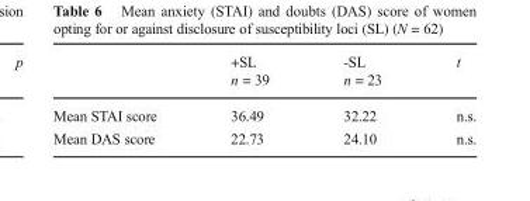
<table><thead><tr><td rowspan="2"></td><td rowspan="2">+SL n = 39</td><td rowspan="2">-SL n = 23</td><td rowspan="2">t</td></tr><tr></tr></thead><tbody><tr><td>Mean STAI score</td><td>36.49</td><td>32.22</td><td>n.s.</td></tr><tr><td>Mean DAS score</td><td>22.73</td><td>24.10</td><td>n.s.</td></tr></tbody></table>